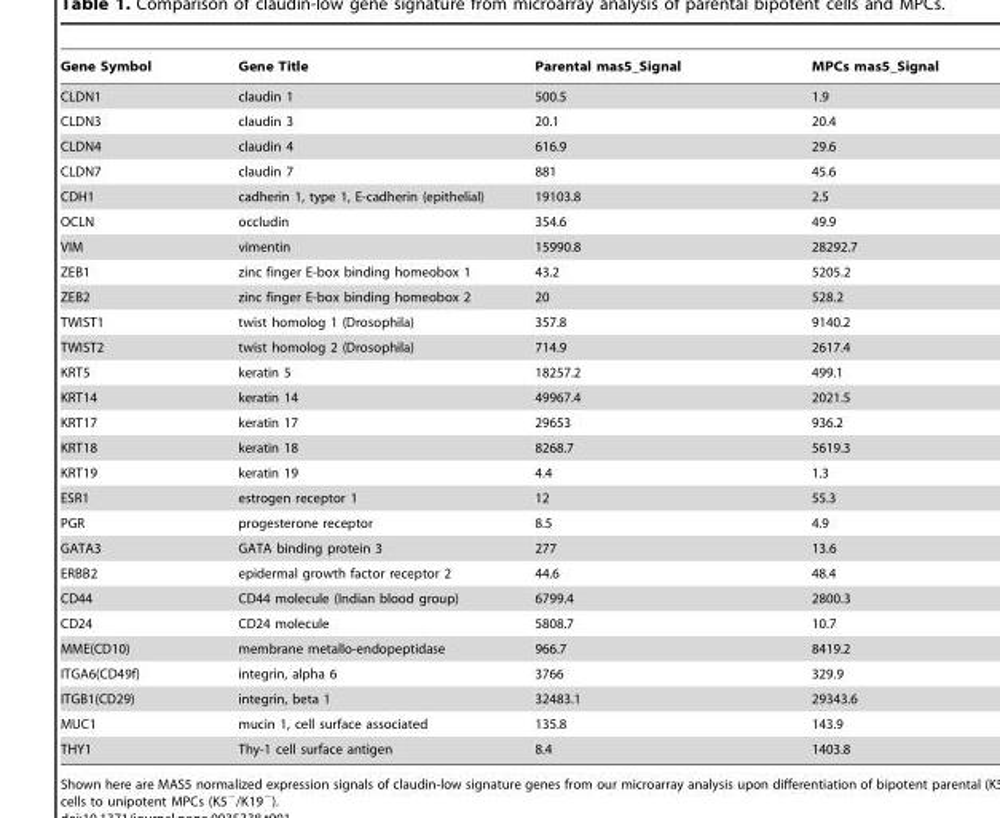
<table><thead><tr><td>Gene Symbol</td><td>Gene Title</td><td>Parental mas5_Signal</td><td>MPCs mas5_Signal</td></tr></thead><tbody><tr><td>CLDN1</td><td>claudin 1</td><td>500.5</td><td>1.9</td></tr><tr><td>CLDN3</td><td>claudin 3</td><td>20.1</td><td>20.4</td></tr><tr><td>CLDN4</td><td>claudin 4</td><td>616.9</td><td>29.6</td></tr><tr><td>CLDN7</td><td>claudin 7</td><td>881</td><td>45.6</td></tr><tr><td>CDH1</td><td>cadherin 1, type 1, E-cadherin (epithelial)</td><td>19103.8</td><td>2.5</td></tr><tr><td>OCLN</td><td>occludin</td><td>354.6</td><td>49.9</td></tr><tr><td>VIM</td><td>vimentin</td><td>15990.8</td><td>28292.7</td></tr><tr><td>ZEB1</td><td>zinc finger E-box binding homeobox 1</td><td>43.2</td><td>5205.2</td></tr><tr><td>ZEB2</td><td>zinc finger E-box binding homeobox 2</td><td>20</td><td>528.2</td></tr><tr><td>TWIST1</td><td>twist homolog 1 (Drosophila)</td><td>357.8</td><td>9140.2</td></tr><tr><td>TWIST2</td><td>twist homolog 2 (Drosophila)</td><td>714.9</td><td>2617.4</td></tr><tr><td>KRT5</td><td>keratin 5</td><td>18257.2</td><td>499.1</td></tr><tr><td>KRT14</td><td>keratin 14</td><td>49967.4</td><td>2021.5</td></tr><tr><td>KRT17</td><td>keratin 17</td><td>29653</td><td>936.2</td></tr><tr><td>KRT18</td><td>keratin 18</td><td>8268.7</td><td>5619.3</td></tr><tr><td>KRT19</td><td>keratin 19</td><td>4.4</td><td>1.3</td></tr><tr><td>ESR1</td><td>estrogen receptor 1</td><td>12</td><td>55.3</td></tr><tr><td>PGR</td><td>progesterone receptor</td><td>8.5</td><td>4.9</td></tr><tr><td>GATA3</td><td>GATA binding protein 3</td><td>277</td><td>13.6</td></tr><tr><td>ERBB2</td><td>epidermal growth factor receptor 2</td><td>44.6</td><td>48.4</td></tr><tr><td>CD44</td><td>CD44 molecule (Indian blood group)</td><td>6799.4</td><td>2800.3</td></tr><tr><td>CD24</td><td>CD24 molecule</td><td>5808.7</td><td>10.7</td></tr><tr><td>MME(CD10)</td><td>membrane metallo-endopeptidase</td><td>966.7</td><td>8419.2</td></tr><tr><td>ITGA6(CD49f)</td><td>integrin, alpha 6</td><td>3766</td><td>329.9</td></tr><tr><td>ITGB1(CD29)</td><td>integrin, beta 1</td><td>32483.1</td><td>29343.6</td></tr><tr><td>MUC1</td><td>mucin 1, cell surface associated</td><td>135.8</td><td>143.9</td></tr><tr><td>THY1</td><td>Thy-1 cell surface antigen</td><td>8.4</td><td>1403.8</td></tr></tbody></table>